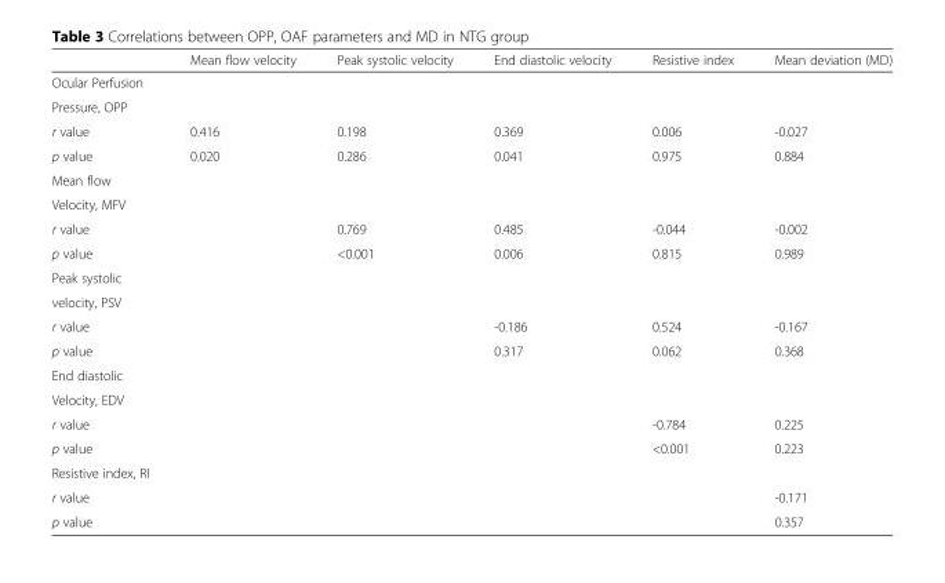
<table><thead><tr><td></td><td>Mean flow velocity</td><td>Peak systolic velocity</td><td>End diastolic velocity</td><td>Resistive index</td><td>Mean deviation (MD)</td></tr></thead><tbody><tr><td colspan="6">Ocular Perfusion</td></tr><tr><td colspan="6">Pressure, OPP</td></tr><tr><td>r value</td><td>0.416</td><td>0.198</td><td>0.369</td><td>0.006</td><td>-0.027</td></tr><tr><td>p value</td><td>0.020</td><td>0.286</td><td>0.041</td><td>0.975</td><td>0.884</td></tr><tr><td colspan="6">Mean flow</td></tr><tr><td colspan="6">Velocity, MFV</td></tr><tr><td>r value</td><td></td><td>0.769</td><td>0.485</td><td>-0.044</td><td>-0.002</td></tr><tr><td>p value</td><td></td><td>&lt;0.001</td><td>0.006</td><td>0.815</td><td>0.989</td></tr><tr><td colspan="6">Peak systolic</td></tr><tr><td colspan="6">velocity, PSV</td></tr><tr><td>r value</td><td></td><td></td><td>-0.186</td><td>0.524</td><td>-0.167</td></tr><tr><td>p value</td><td></td><td></td><td>0.317</td><td>0.062</td><td>0.368</td></tr><tr><td colspan="6">End diastolic</td></tr><tr><td colspan="6">Velocity, EDV</td></tr><tr><td>r value</td><td></td><td></td><td></td><td>-0.784</td><td>0.225</td></tr><tr><td>p value</td><td></td><td></td><td></td><td>&lt;0.001</td><td>0.223</td></tr><tr><td colspan="6">Resistive index, RI</td></tr><tr><td>r value</td><td></td><td></td><td></td><td></td><td>-0.171</td></tr><tr><td>p value</td><td></td><td></td><td></td><td></td><td>0.357</td></tr></tbody></table>